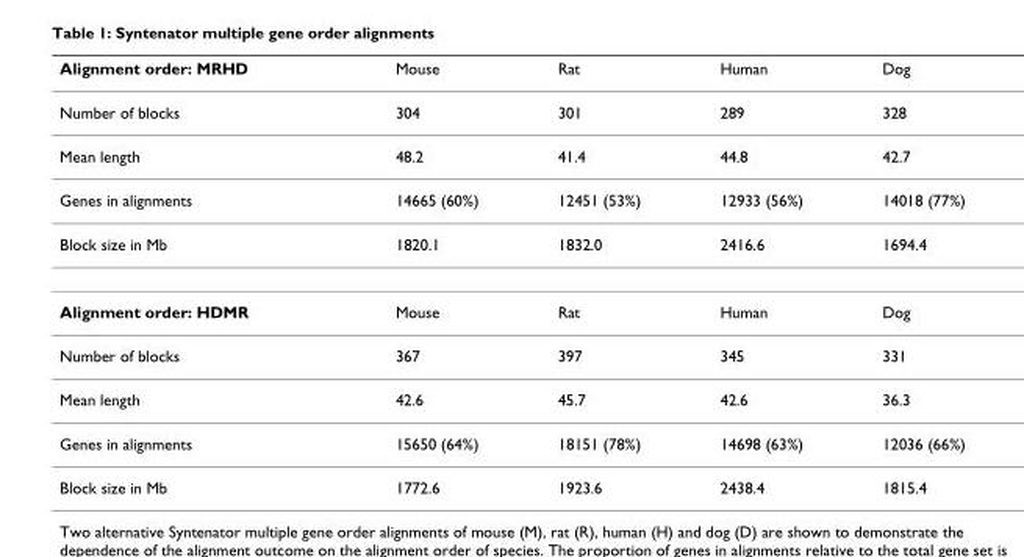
<table><thead><tr><td>Alignment order: MRHD</td><td>Mouse</td><td>Rat</td><td>Human</td><td>Dog</td></tr></thead><tbody><tr><td>Number of blocks</td><td>304</td><td>301</td><td>289</td><td>328</td></tr><tr><td>Mean length</td><td>48.2</td><td>41.4</td><td>44.8</td><td>42.7</td></tr><tr><td>Genes in alignments</td><td>14665 (60%)</td><td>12451 (53%)</td><td>12933 (56%)</td><td>14018 (77%)</td></tr><tr><td>Block size in Mb</td><td>1820.1</td><td>1832.0</td><td>2416.6</td><td>1694.4</td></tr><tr><td>Alignment order: HDMR</td><td>Mouse</td><td>Rat</td><td>Human</td><td>Dog</td></tr><tr><td>Number of blocks</td><td>367</td><td>397</td><td>345</td><td>331</td></tr><tr><td>Mean length</td><td>42.6</td><td>45.7</td><td>42.6</td><td>36.3</td></tr><tr><td>Genes in alignments</td><td>15650 (64%)</td><td>18151 (78%)</td><td>14698 (63%)</td><td>12036 (66%)</td></tr><tr><td>Block size in Mb</td><td>1772.6</td><td>1923.6</td><td>2438.4</td><td>1815.4</td></tr></tbody></table>